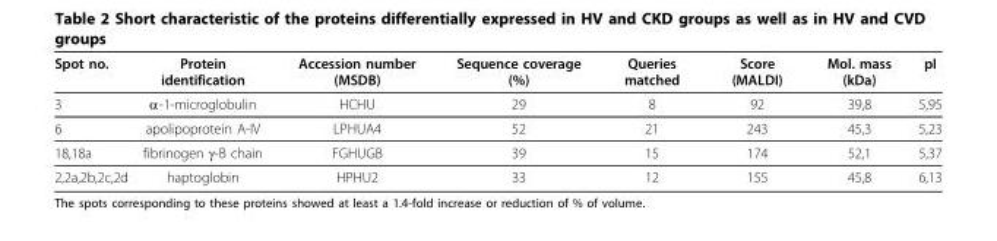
<table><thead><tr><td>Spot no.</td><td>Protein identification</td><td>Accession number (MSDB)</td><td>Sequence coverage (%)</td><td>Queries matched</td><td>Score (MALDI)</td><td>Mol. mass (kDa)</td><td>pI</td></tr></thead><tbody><tr><td>3</td><td>α-1-microglobulin</td><td>HCHU</td><td>29</td><td>8</td><td>92</td><td>39,8</td><td>5,95</td></tr><tr><td>6</td><td>apolipoprotein A-IV</td><td>LPHUA4</td><td>52</td><td>21</td><td>243</td><td>45,3</td><td>5,23</td></tr><tr><td>18,18a</td><td>fibrinogen γ-B chain</td><td>FGHUGB</td><td>39</td><td>15</td><td>174</td><td>52,1</td><td>5,37</td></tr><tr><td>2,2a,2b,2c,2d</td><td>haptoglobin</td><td>HPHU2</td><td>33</td><td>12</td><td>155</td><td>45,8</td><td>6,13</td></tr></tbody></table>